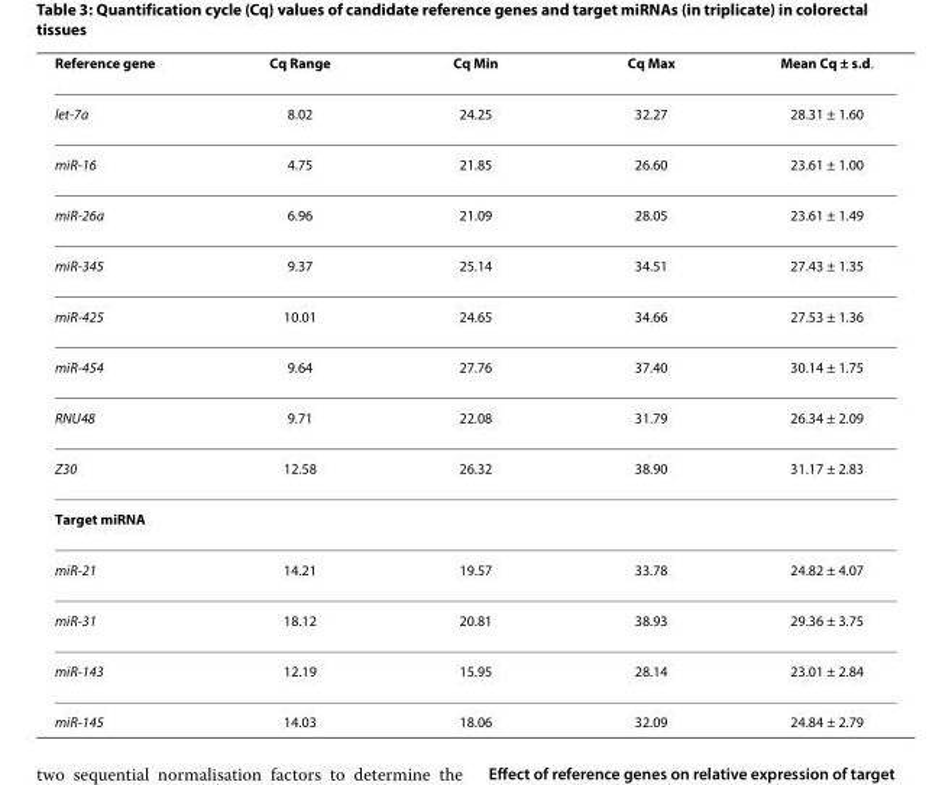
<table><thead><tr><td>Reference gene</td><td>Cq Range</td><td>Cq Min</td><td>Cq Max</td><td>Mean Cq ± s.d.</td></tr></thead><tbody><tr><td>let-7a</td><td>8.02</td><td>24.25</td><td>32.27</td><td>28.31 ± 1.60</td></tr><tr><td>miR-16</td><td>4.75</td><td>21.85</td><td>26.60</td><td>23.61 ± 1.00</td></tr><tr><td>miR-26a</td><td>6.96</td><td>21.09</td><td>28.05</td><td>23.61 ± 1.49</td></tr><tr><td>miR-345</td><td>9.37</td><td>25.14</td><td>34.51</td><td>27.43 ± 1.35</td></tr><tr><td>miR-425</td><td>10.01</td><td>24.65</td><td>34.66</td><td>27.53 ± 1.36</td></tr><tr><td>miR-454</td><td>9.64</td><td>27.76</td><td>37.40</td><td>30.14 ± 1.75</td></tr><tr><td>RNU48</td><td>9.71</td><td>22.08</td><td>31.79</td><td>26.34 ± 2.09</td></tr><tr><td>Z30</td><td>12.58</td><td>26.32</td><td>38.90</td><td>31.17 ± 2.83</td></tr><tr><td colspan="5">Target miRNA</td></tr><tr><td>miR-21</td><td>14.21</td><td>19.57</td><td>33.78</td><td>24.82 ± 4.07</td></tr><tr><td>miR-31</td><td>18.12</td><td>20.81</td><td>38.93</td><td>29.36 ± 3.75</td></tr><tr><td>miR-143</td><td>12.19</td><td>15.95</td><td>28.14</td><td>23.01 ± 2.84</td></tr><tr><td>miR-145</td><td>14.03</td><td>18.06</td><td>32.09</td><td>24.84 ± 2.79</td></tr></tbody></table>